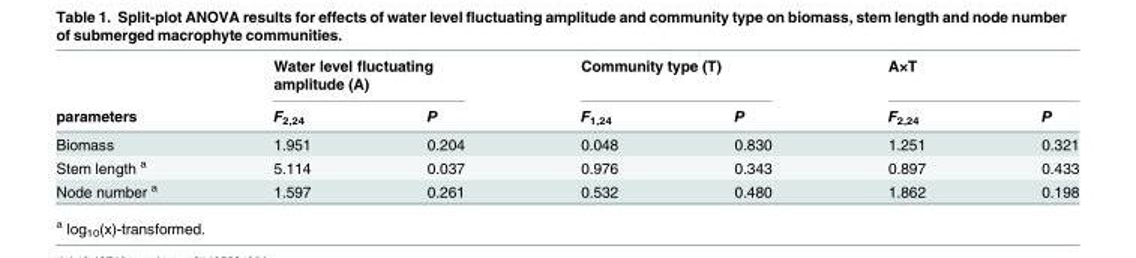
<table><thead><tr><td rowspan="2">parameters</td><td colspan="2">Water level fluctuating amplitude (A)</td><td colspan="2">Community type (T)</td><td colspan="2">A×T</td></tr><tr><td>F<sub>2,24</sub></td><td>P</td><td>F<sub>1,24</sub></td><td>P</td><td>F<sub>2,24</sub></td><td>P</td></tr></thead><tbody><tr><td>Biomass</td><td>1.951</td><td>0.204</td><td>0.048</td><td>0.830</td><td>1.251</td><td>0.321</td></tr><tr><td>Stem length <sup>a</sup></td><td>5.114</td><td>0.037</td><td>0.976</td><td>0.343</td><td>0.897</td><td>0.433</td></tr><tr><td>Node number <sup>a</sup></td><td>1.597</td><td>0.261</td><td>0.532</td><td>0.480</td><td>1.862</td><td>0.198</td></tr></tbody></table>